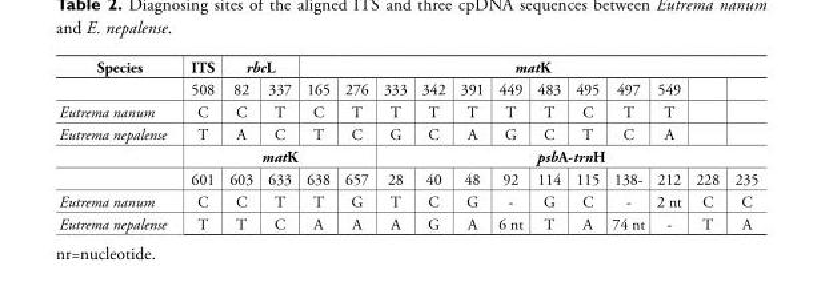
<table><thead><tr><td rowspan="2">Species</td><td rowspan="2">ITS 508</td><td colspan="2">rbcL</td><td colspan="12">matK</td></tr><tr><td>82</td><td>337</td><td>165</td><td>276</td><td>333</td><td>342</td><td>391</td><td>449</td><td>483</td><td>495</td><td>497</td><td>549</td><td></td><td></td></tr></thead><tbody><tr><td>Eutrema nanum</td><td>C</td><td>C</td><td>T</td><td>C</td><td>T</td><td>T</td><td>T</td><td>T</td><td>T</td><td>T</td><td>C</td><td>T</td><td>T</td><td></td><td></td></tr><tr><td rowspan="3">Eutrema nepalense</td><td>T</td><td>A</td><td>C</td><td>T</td><td>C</td><td>G</td><td>C</td><td>A</td><td>G</td><td>C</td><td>T</td><td>C</td><td>A</td><td></td><td></td></tr><tr><td colspan="5">matK</td><td colspan="10">psbA-trnH</td></tr><tr><td>601</td><td>603</td><td>633</td><td>638</td><td>657</td><td>28</td><td>40</td><td>48</td><td>92</td><td>114</td><td>115</td><td>138-</td><td>212</td><td>228</td><td>235</td></tr><tr><td>Eutrema nanum</td><td>C</td><td>C</td><td>T</td><td>T</td><td>G</td><td>T</td><td>C</td><td>G</td><td>-</td><td>G</td><td>C</td><td>-</td><td>2 nt</td><td>C</td><td>C</td></tr><tr><td>Eutrema nepalense</td><td>T</td><td>T</td><td>C</td><td>A</td><td>A</td><td>A</td><td>G</td><td>A</td><td>6 nt</td><td>T</td><td>A</td><td>74 nt</td><td>-</td><td>T</td><td>A</td></tr></tbody></table>